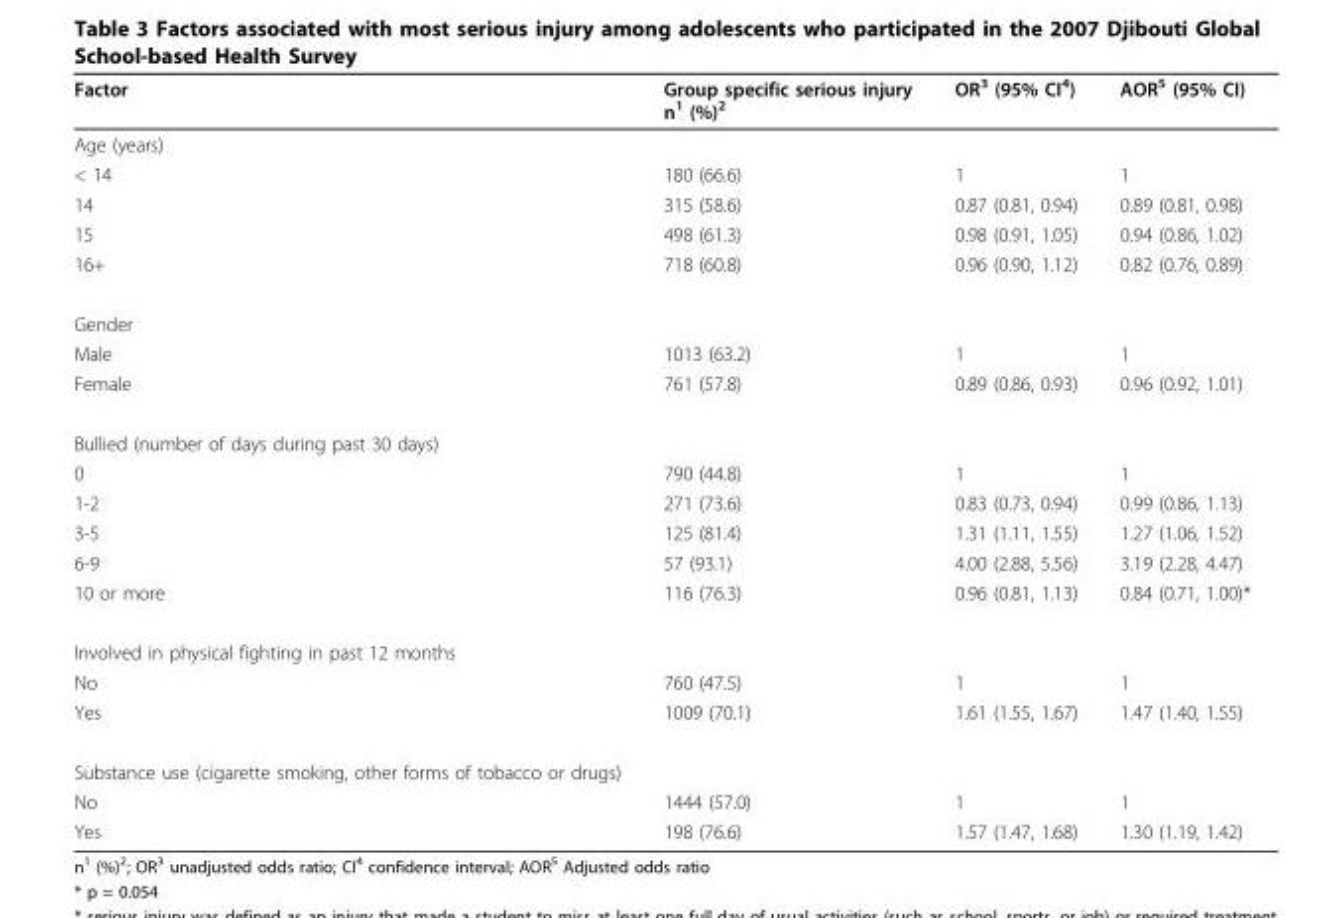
<table><thead><tr><td>Factor</td><td>Group specific serious injury n<sup>1</sup> (%)<sup>2</sup></td><td>OR<sup>3</sup> (95% CI<sup>4</sup>)</td><td>AOR<sup>5</sup> (95% CI)</td></tr></thead><tbody><tr><td colspan="4">Age (years)</td></tr><tr><td>&lt; 14</td><td>180 (66.6)</td><td>1</td><td>1</td></tr><tr><td>14</td><td>315 (58.6)</td><td>0.87 (0.81, 0.94)</td><td>0.89 (0.81, 0.98)</td></tr><tr><td>15</td><td>498 (61.3)</td><td>0.98 (0.91, 1.05)</td><td>0.94 (0.86, 1.02)</td></tr><tr><td>16+</td><td>718 (60.8)</td><td>0.96 (0.90, 1.12)</td><td>0.82 (0.76, 0.89)</td></tr><tr><td colspan="4">Gender</td></tr><tr><td>Male</td><td>1013 (63.2)</td><td>1</td><td>1</td></tr><tr><td>Female</td><td>761 (57.8)</td><td>0.89 (0.86, 0.93)</td><td>0.96 (0.92, 1.01)</td></tr><tr><td colspan="4">Bullied (number of days during past 30 days)</td></tr><tr><td>0</td><td>790 (44.8)</td><td>1</td><td>1</td></tr><tr><td>1-2</td><td>271 (73.6)</td><td>0.83 (0.73, 0.94)</td><td>0.99 (0.86, 1.13)</td></tr><tr><td>3-5</td><td>125 (81.4)</td><td>1.31 (1.11, 1.55)</td><td>1.27 (1.06, 1.52)</td></tr><tr><td>6-9</td><td>57 (93.1)</td><td>4.00 (2.88, 5.56)</td><td>3.19 (2.28, 4.47)</td></tr><tr><td>10 or more</td><td>116 (76.3)</td><td>0.96 (0.81, 1.13)</td><td>0.84 (0.71, 1.00)*</td></tr><tr><td colspan="4">Involved in physical fighting in past 12 months</td></tr><tr><td>No</td><td>760 (47.5)</td><td>1</td><td>1</td></tr><tr><td>Yes</td><td>1009 (70.1)</td><td>1.61 (1.55, 1.67)</td><td>1.47 (1.40, 1.55)</td></tr><tr><td colspan="4">Substance use (cigarette smoking, other forms of tobacco or drugs)</td></tr><tr><td>No</td><td>1444 (57.0)</td><td>1</td><td>1</td></tr><tr><td>Yes</td><td>198 (76.6)</td><td>1.57 (1.47, 1.68)</td><td>1.30 (1.19, 1.42)</td></tr></tbody></table>